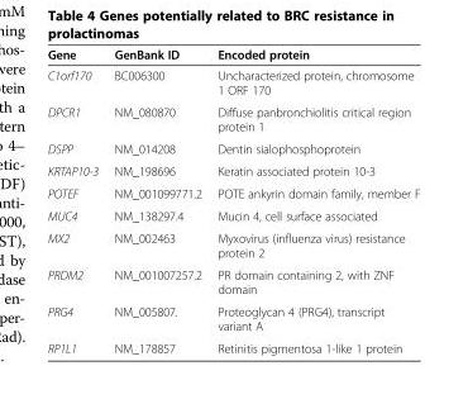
<table><thead><tr><td>Gene</td><td>GenBank ID</td><td>Encoded protein</td></tr></thead><tbody><tr><td>C1orf170</td><td>BC006300</td><td>Uncharacterized protein, chromosome 1 ORF 170</td></tr><tr><td>DPCR1</td><td>NM_080870</td><td>Diffuse panbronchiolitis critical region protein 1</td></tr><tr><td>DSPP</td><td>NM_014208</td><td>Dentin sialophosphoprotein</td></tr><tr><td>KRTAP10-3</td><td>NM_198696</td><td>Keratin associated protein 10-3</td></tr><tr><td>POTEF</td><td>NM_001099771.2</td><td>POTE ankyrin domain family, member F</td></tr><tr><td>MUC4</td><td>NM_138297.4</td><td>Mucin 4, cell surface associated</td></tr><tr><td>MX2</td><td>NM_002463</td><td>Myxovirus (influenza virus) resistance protein 2</td></tr><tr><td>PRDM2</td><td>NM_001007257.2</td><td>PR domain containing 2, with ZNF domain</td></tr><tr><td>PRG4</td><td>NM_005807.</td><td>Proteoglycan 4 (PRG4), transcript variant A</td></tr><tr><td>RP1L1</td><td>NM_178857</td><td>Retinitis pigmentosa 1-like 1 protein</td></tr></tbody></table>